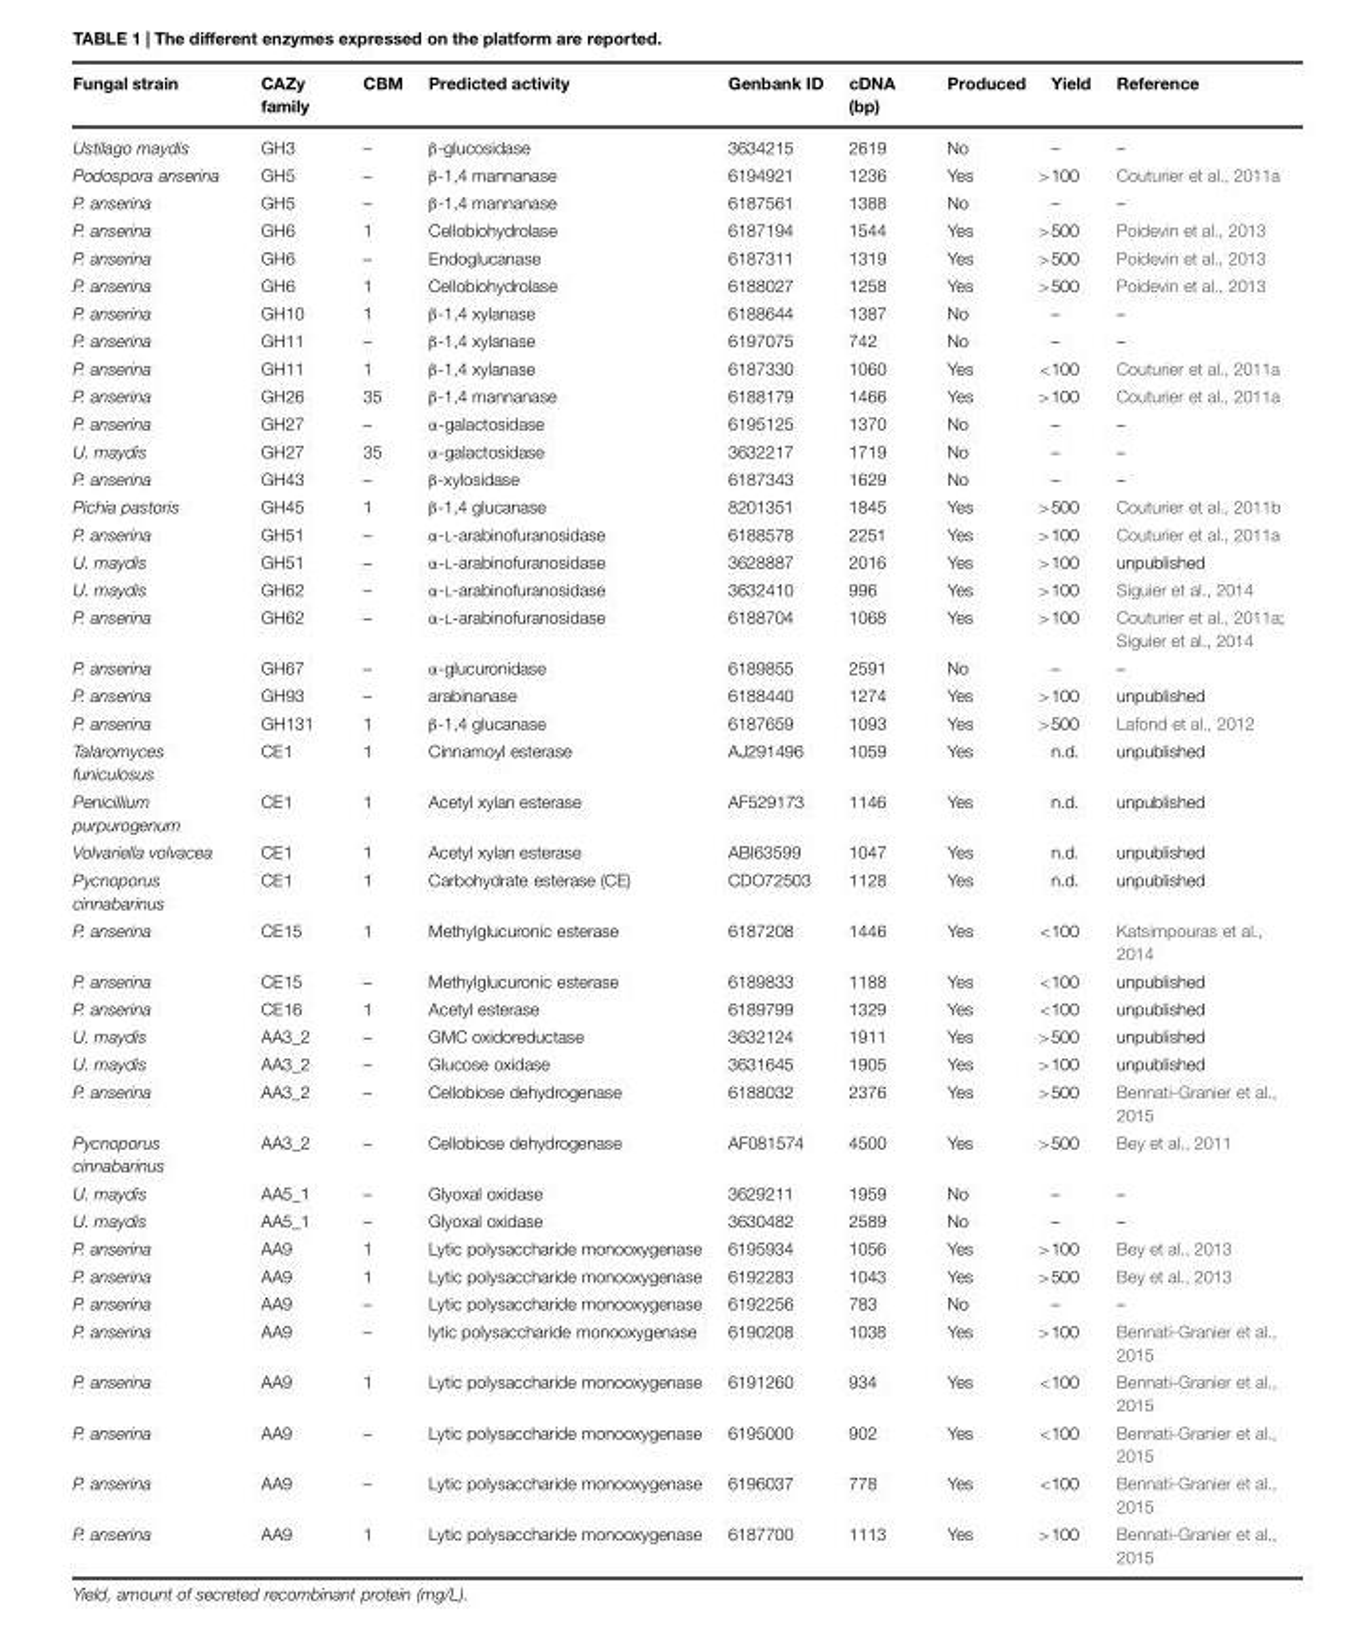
<table><thead><tr><td>Fungal strain</td><td>CAZy family</td><td>CBM</td><td>Predicted activity</td><td>Genbank ID</td><td>cDNA (bp)</td><td>Produced</td><td>Yield</td><td>Reference</td></tr></thead><tbody><tr><td>Ustilago maydis</td><td>GH3</td><td>–</td><td>β-glucosidase</td><td>3634215</td><td>2619</td><td>No</td><td>–</td><td>–</td></tr><tr><td>Podospora anserina</td><td>GH5</td><td>–</td><td>β-1,4 mannanase</td><td>6194921</td><td>1236</td><td>Yes</td><td>&gt;100</td><td>Couturier et al., 2011a</td></tr><tr><td>P. anserina</td><td>GH5</td><td>–</td><td>β-1,4 mannanase</td><td>6187561</td><td>1388</td><td>No</td><td>–</td><td>–</td></tr><tr><td>P. anserina</td><td>GH6</td><td>1</td><td>Cellobiohydrolase</td><td>6187194</td><td>1544</td><td>Yes</td><td>&gt;500</td><td>Poidevin et al., 2013</td></tr><tr><td>P. anserina</td><td>GH6</td><td>–</td><td>Endoglucanase</td><td>6187311</td><td>1319</td><td>Yes</td><td>&gt;500</td><td>Poidevin et al., 2013</td></tr><tr><td>P. anserina</td><td>GH6</td><td>1</td><td>Cellobiohydrolase</td><td>6188027</td><td>1258</td><td>Yes</td><td>&gt;500</td><td>Poidevin et al., 2013</td></tr><tr><td>P. anserina</td><td>GH10</td><td>1</td><td>β-1,4 xylanase</td><td>6188644</td><td>1387</td><td>No</td><td>–</td><td>–</td></tr><tr><td>P. anserina</td><td>GH11</td><td>–</td><td>β-1,4 xylanase</td><td>6197075</td><td>742</td><td>No</td><td>–</td><td>–</td></tr><tr><td>P. anserina</td><td>GH11</td><td>1</td><td>β-1,4 xylanase</td><td>6187330</td><td>1060</td><td>Yes</td><td>&lt;100</td><td>Couturier et al., 2011a</td></tr><tr><td>P. anserina</td><td>GH26</td><td>35</td><td>β-1,4 mannanase</td><td>6188179</td><td>1466</td><td>Yes</td><td>&gt;100</td><td>Couturier et al., 2011a</td></tr><tr><td>P. anserina</td><td>GH27</td><td>–</td><td>α-galactosidase</td><td>6195125</td><td>1370</td><td>No</td><td>–</td><td>–</td></tr><tr><td>U. maydis</td><td>GH27</td><td>35</td><td>α-galactosidase</td><td>3632217</td><td>1719</td><td>No</td><td>–</td><td>–</td></tr><tr><td>P. anserina</td><td>GH43</td><td>–</td><td>β-xylosidase</td><td>6187343</td><td>1629</td><td>No</td><td>–</td><td>–</td></tr><tr><td>Pichia pastoris</td><td>GH45</td><td>1</td><td>β-1,4 glucanase</td><td>8201351</td><td>1845</td><td>Yes</td><td>&gt;500</td><td>Couturier et al., 2011b</td></tr><tr><td>P. anserina</td><td>GH51</td><td>–</td><td>α-L-arabinofuranosidase</td><td>6188578</td><td>2251</td><td>Yes</td><td>&gt;100</td><td>Couturier et al., 2011a</td></tr><tr><td>U. maydis</td><td>GH51</td><td>–</td><td>α-L-arabinofuranosidase</td><td>3628887</td><td>2016</td><td>Yes</td><td>&gt;100</td><td>unpublished</td></tr><tr><td>U. maydis</td><td>GH62</td><td>–</td><td>α-L-arabinofuranosidase</td><td>3632410</td><td>996</td><td>Yes</td><td>&gt;100</td><td>Siguier et al., 2014</td></tr><tr><td>P. anserina</td><td>GH62</td><td>–</td><td>α-L-arabinofuranosidase</td><td>6188704</td><td>1068</td><td>Yes</td><td>&gt;100</td><td>Couturier et al., 2011a; Siguier et al., 2014</td></tr><tr><td>P. anserina</td><td>GH67</td><td>–</td><td>α-glucuronidase</td><td>6189855</td><td>2591</td><td>No</td><td>–</td><td>–</td></tr><tr><td>P. anserina</td><td>GH93</td><td>–</td><td>arabinanase</td><td>6188440</td><td>1274</td><td>Yes</td><td>&gt;100</td><td>unpublished</td></tr><tr><td>P. anserina</td><td>GH131</td><td>1</td><td>β-1,4 glucanase</td><td>6187659</td><td>1093</td><td>Yes</td><td>&gt;500</td><td>Lafond et al., 2012</td></tr><tr><td>Talaromyces funiculosus</td><td>CE1</td><td>1</td><td>Cinnamoyl esterase</td><td>AJ291496</td><td>1059</td><td>Yes</td><td>n.d.</td><td>unpublished</td></tr><tr><td>Penicillium purpurogenum</td><td>CE1</td><td>1</td><td>Acetyl xylan esterase</td><td>AF529173</td><td>1146</td><td>Yes</td><td>n.d.</td><td>unpublished</td></tr><tr><td>Volvariella volvacea</td><td>CE1</td><td>1</td><td>Acetyl xylan esterase</td><td>ABI63599</td><td>1047</td><td>Yes</td><td>n.d.</td><td>unpublished</td></tr><tr><td>Pycnoporus cinnabarinus</td><td>CE1</td><td>1</td><td>Carbohydrate esterase (CE)</td><td>CDO72503</td><td>1128</td><td>Yes</td><td>n.d.</td><td>unpublished</td></tr><tr><td>P. anserina</td><td>CE15</td><td>1</td><td>Methylglucuronic esterase</td><td>6187208</td><td>1446</td><td>Yes</td><td>&lt;100</td><td>Katsimpouras et al., 2014</td></tr><tr><td>P. anserina</td><td>CE15</td><td>–</td><td>Methylglucuronic esterase</td><td>6189833</td><td>1188</td><td>Yes</td><td>&lt;100</td><td>unpublished</td></tr><tr><td>P. anserina</td><td>CE16</td><td>1</td><td>Acetyl esterase</td><td>6189799</td><td>1329</td><td>Yes</td><td>&lt;100</td><td>unpublished</td></tr><tr><td>U. maydis</td><td>AA3_2</td><td>–</td><td>GMC oxidoreductase</td><td>3632124</td><td>1911</td><td>Yes</td><td>&gt;500</td><td>unpublished</td></tr><tr><td>U. maydis</td><td>AA3_2</td><td>–</td><td>Glucose oxidase</td><td>3631645</td><td>1905</td><td>Yes</td><td>&gt;100</td><td>unpublished</td></tr><tr><td>P. anserina</td><td>AA3_2</td><td>–</td><td>Cellobiose dehydrogenase</td><td>6188032</td><td>2376</td><td>Yes</td><td>&gt;500</td><td>Bennati-Granier et al., 2015</td></tr><tr><td>Pycnoporus cinnabarinus</td><td>AA3_2</td><td>–</td><td>Cellobiose dehydrogenase</td><td>AF081574</td><td>4500</td><td>Yes</td><td>&gt;500</td><td>Bey et al., 2011</td></tr><tr><td>U. maydis</td><td>AA5_1</td><td>–</td><td>Glyoxal oxidase</td><td>3629211</td><td>1959</td><td>No</td><td>–</td><td>–</td></tr><tr><td>U. maydis</td><td>AA5_1</td><td>–</td><td>Glyoxal oxidase</td><td>3630482</td><td>2589</td><td>No</td><td>–</td><td>–</td></tr><tr><td>P. anserina</td><td>AA9</td><td>1</td><td>Lytic polysaccharide monooxygenase</td><td>6195934</td><td>1056</td><td>Yes</td><td>&gt;100</td><td>Bey et al., 2013</td></tr><tr><td>P. anserina</td><td>AA9</td><td>1</td><td>Lytic polysaccharide monooxygenase</td><td>6192283</td><td>1043</td><td>Yes</td><td>&gt;500</td><td>Bey et al., 2013</td></tr><tr><td>P. anserina</td><td>AA9</td><td>–</td><td>Lytic polysaccharide monooxygenase</td><td>6192256</td><td>783</td><td>No</td><td>–</td><td>–</td></tr><tr><td>P. anserina</td><td>AA9</td><td>–</td><td>lytic polysaccharide monooxygenase</td><td>6190208</td><td>1038</td><td>Yes</td><td>&gt;100</td><td>Bennati-Granier et al., 2015</td></tr><tr><td>P. anserina</td><td>AA9</td><td>1</td><td>Lytic polysaccharide monooxygenase</td><td>6191260</td><td>934</td><td>Yes</td><td>&lt;100</td><td>Bennati-Granier et al., 2015</td></tr><tr><td>P. anserina</td><td>AA9</td><td>–</td><td>Lytic polysaccharide monooxygenase</td><td>6195000</td><td>902</td><td>Yes</td><td>&lt;100</td><td>Bennati-Granier et al., 2015</td></tr><tr><td>P. anserina</td><td>AA9</td><td>–</td><td>Lytic polysaccharide monooxygenase</td><td>6196037</td><td>778</td><td>Yes</td><td>&lt;100</td><td>Bennati-Granier et al., 2015</td></tr><tr><td>P. anserina</td><td>AA9</td><td>1</td><td>Lytic polysaccharide monooxygenase</td><td>6187700</td><td>1113</td><td>Yes</td><td>&gt;100</td><td>Bennati-Granier et al., 2015</td></tr></tbody></table>